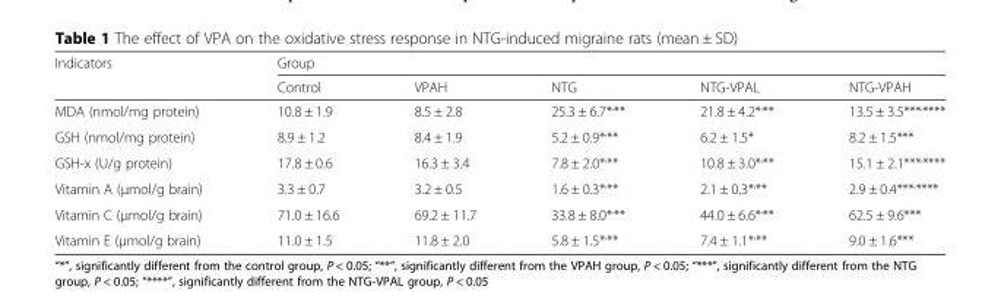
<table><thead><tr><td rowspan="2">Indicators</td><td colspan="5">Group</td></tr><tr><td>Control</td><td>VPAH</td><td>NTG</td><td>NTG-VPAL</td><td>NTG-VPAH</td></tr></thead><tbody><tr><td>MDA (nmol/mg protein)</td><td>10.8 ± 1.9</td><td>8.5 ± 2.8</td><td>25.3 ± 6.7*<sup>,</sup>**</td><td>21.8 ± 4.2*<sup>,</sup>**</td><td>13.5 ± 3.5***<sup>,</sup>****</td></tr><tr><td>GSH (nmol/mg protein)</td><td>8.9 ± 1.2</td><td>8.4 ± 1.9</td><td>5.2 ± 0.9*<sup>,</sup>**</td><td>6.2 ± 1.5*</td><td>8.2 ± 1.5***</td></tr><tr><td>GSH-x (U/g protein)</td><td>17.8 ± 0.6</td><td>16.3 ± 3.4</td><td>7.8 ± 2.0*<sup>,</sup>**</td><td>10.8 ± 3.0*<sup>,</sup>**</td><td>15.1 ± 2.1***<sup>,</sup>****</td></tr><tr><td>Vitamin A (μmol/g brain)</td><td>3.3 ± 0.7</td><td>3.2 ± 0.5</td><td>1.6 ± 0.3*<sup>,</sup>**</td><td>2.1 ± 0.3*<sup>,</sup>**</td><td>2.9 ± 0.4***<sup>,</sup>****</td></tr><tr><td>Vitamin C (μmol/g brain)</td><td>71.0 ± 16.6</td><td>69.2 ± 11.7</td><td>33.8 ± 8.0*<sup>,</sup>**</td><td>44.0 ± 6.6*<sup>,</sup>**</td><td>62.5 ± 9.6***</td></tr><tr><td>Vitamin E (μmol/g brain)</td><td>11.0 ± 1.5</td><td>11.8 ± 2.0</td><td>5.8 ± 1.5*<sup>,</sup>**</td><td>7.4 ± 1.1*<sup>,</sup>**</td><td>9.0 ± 1.6***</td></tr></tbody></table>